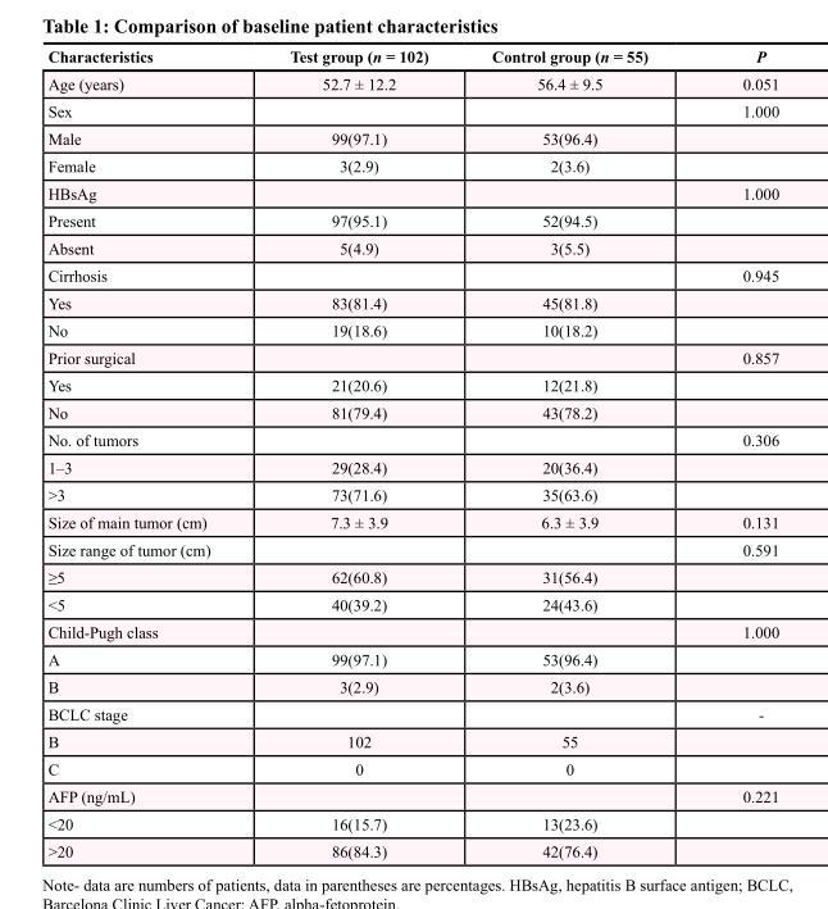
<table><thead><tr><td>Characteristics</td><td>Test group (n = 102)</td><td>Control group (n = 55)</td><td>P</td></tr></thead><tbody><tr><td>Age (years)</td><td>52.7 ± 12.2</td><td>56.4 ± 9.5</td><td>0.051</td></tr><tr><td>Sex</td><td></td><td></td><td>1.000</td></tr><tr><td>Male</td><td>99(97.1)</td><td>53(96.4)</td><td></td></tr><tr><td>Female</td><td>3(2.9)</td><td>2(3.6)</td><td></td></tr><tr><td>HBsAg</td><td></td><td></td><td>1.000</td></tr><tr><td>Present</td><td>97(95.1)</td><td>52(94.5)</td><td></td></tr><tr><td>Absent</td><td>5(4.9)</td><td>3(5.5)</td><td></td></tr><tr><td>Cirrhosis</td><td></td><td></td><td>0.945</td></tr><tr><td>Yes</td><td>83(81.4)</td><td>45(81.8)</td><td></td></tr><tr><td>No</td><td>19(18.6)</td><td>10(18.2)</td><td></td></tr><tr><td>Prior surgical</td><td></td><td></td><td>0.857</td></tr><tr><td>Yes</td><td>21(20.6)</td><td>12(21.8)</td><td></td></tr><tr><td>No</td><td>81(79.4)</td><td>43(78.2)</td><td></td></tr><tr><td>No. of tumors</td><td></td><td></td><td>0.306</td></tr><tr><td>1–3</td><td>29(28.4)</td><td>20(36.4)</td><td></td></tr><tr><td>&gt;3</td><td>73(71.6)</td><td>35(63.6)</td><td></td></tr><tr><td>Size of main tumor (cm)</td><td>7.3 ± 3.9</td><td>6.3 ± 3.9</td><td>0.131</td></tr><tr><td>Size range of tumor (cm)</td><td></td><td></td><td>0.591</td></tr><tr><td>≥5</td><td>62(60.8)</td><td>31(56.4)</td><td></td></tr><tr><td>&lt;5</td><td>40(39.2)</td><td>24(43.6)</td><td></td></tr><tr><td>Child-Pugh class</td><td></td><td></td><td>1.000</td></tr><tr><td>A</td><td>99(97.1)</td><td>53(96.4)</td><td></td></tr><tr><td>B</td><td>3(2.9)</td><td>2(3.6)</td><td></td></tr><tr><td>BCLC stage</td><td></td><td></td><td>-</td></tr><tr><td>B</td><td>102</td><td>55</td><td></td></tr><tr><td>C</td><td>0</td><td>0</td><td></td></tr><tr><td>AFP (ng/mL)</td><td></td><td></td><td>0.221</td></tr><tr><td>&lt;20</td><td>16(15.7)</td><td>13(23.6)</td><td></td></tr><tr><td>&gt;20</td><td>86(84.3)</td><td>42(76.4)</td><td></td></tr></tbody></table>